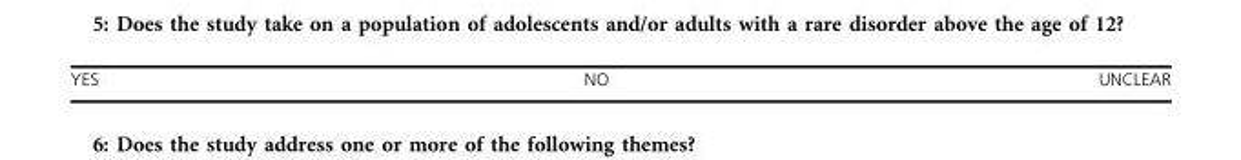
<table><tbody><tr><td>YES</td><td>NO</td><td>⁭UNCLEAR</td></tr></tbody></table>